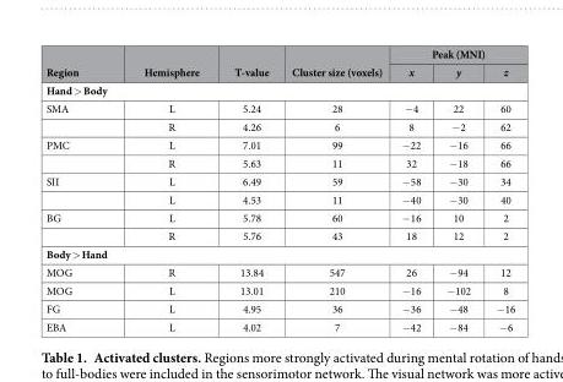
<table><thead><tr><td rowspan="2">Region</td><td rowspan="2">Hemisphere</td><td rowspan="2">T-value</td><td rowspan="2">Cluster size (voxels)</td><td colspan="3">Peak (MNI)</td></tr><tr><td>x</td><td>y</td><td>z</td></tr></thead><tbody><tr><td colspan="7">Hand &gt; Body</td></tr><tr><td rowspan="2">SMA</td><td>L</td><td>5.24</td><td>28</td><td>− 4</td><td>22</td><td>60</td></tr><tr><td>R</td><td>4.26</td><td>6</td><td>8</td><td>− 2</td><td>62</td></tr><tr><td rowspan="2">PMC</td><td>L</td><td>7.01</td><td>99</td><td>− 22</td><td>− 16</td><td>66</td></tr><tr><td>R</td><td>5.63</td><td>11</td><td>32</td><td>− 18</td><td>66</td></tr><tr><td rowspan="2">SII</td><td>L</td><td>6.49</td><td>59</td><td>− 58</td><td>− 30</td><td>34</td></tr><tr><td>L</td><td>4.53</td><td>11</td><td>− 40</td><td>− 30</td><td>40</td></tr><tr><td rowspan="2">BG</td><td>L</td><td>5.78</td><td>60</td><td>− 16</td><td>10</td><td>2</td></tr><tr><td>R</td><td>5.76</td><td>43</td><td>18</td><td>12</td><td>2</td></tr><tr><td colspan="7">Body &gt; Hand</td></tr><tr><td>MOG</td><td>R</td><td>13.84</td><td>547</td><td>26</td><td>− 94</td><td>12</td></tr><tr><td>MOG</td><td>L</td><td>13.01</td><td>210</td><td>− 16</td><td>− 102</td><td>8</td></tr><tr><td>FG</td><td>L</td><td>4.95</td><td>36</td><td>− 36</td><td>− 48</td><td>− 16</td></tr><tr><td>EBA</td><td>L</td><td>4.02</td><td>7</td><td>− 42</td><td>− 84</td><td>− 6</td></tr></tbody></table>